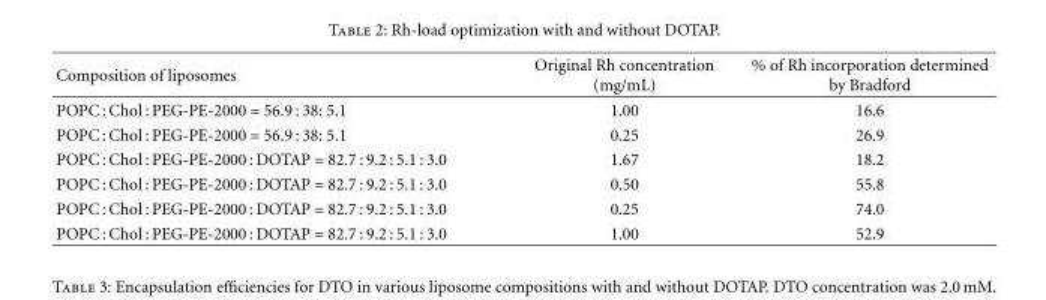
<table><thead><tr><td>Composition of liposomes</td><td>Original Rh concentration (mg/mL)</td><td>% of Rh incorporation determined by Bradford</td></tr></thead><tbody><tr><td>POPC : Chol : PEG-PE-2000 = 56.9 : 38: 5.1</td><td>1.00</td><td>16.6</td></tr><tr><td>POPC : Chol : PEG-PE-2000 = 56.9 : 38: 5.1</td><td>0.25</td><td>26.9</td></tr><tr><td>POPC : Chol : PEG-PE-2000 : DOTAP = 82.7 : 9.2 : 5.1 : 3.0</td><td>1.67</td><td>18.2</td></tr><tr><td>POPC : Chol : PEG-PE-2000 : DOTAP = 82.7 : 9.2 : 5.1 : 3.0</td><td>0.50</td><td>55.8</td></tr><tr><td>POPC : Chol : PEG-PE-2000 : DOTAP = 82.7 : 9.2 : 5.1 : 3.0</td><td>0.25</td><td>74.0</td></tr><tr><td>POPC : Chol : PEG-PE-2000 : DOTAP = 82.7 : 9.2 : 5.1 : 3.0</td><td>1.00</td><td>52.9</td></tr></tbody></table>